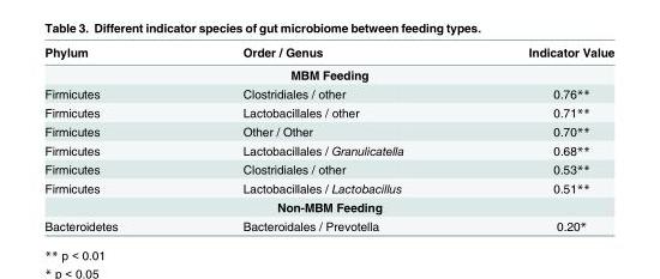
<table><thead><tr><td>Phylum</td><td>Order / Genus</td><td>Indicator Value</td></tr></thead><tbody><tr><td colspan="3">MBM Feeding</td></tr><tr><td>Firmicutes</td><td>Clostridiales / other</td><td>0.76**</td></tr><tr><td>Firmicutes</td><td>Lactobacillales / other</td><td>0.71**</td></tr><tr><td>Firmicutes</td><td>Other / Other</td><td>0.70**</td></tr><tr><td>Firmicutes</td><td>Lactobacillales / Granulicatella</td><td>0.68**</td></tr><tr><td>Firmicutes</td><td>Clostridiales / other</td><td>0.53**</td></tr><tr><td>Firmicutes</td><td>Lactobacillales / Lactobacillus</td><td>0.51**</td></tr><tr><td colspan="3">Non-MBM Feeding</td></tr><tr><td>Bacteroidetes</td><td>Bacteroidales / Prevotella</td><td>0.20*</td></tr></tbody></table>